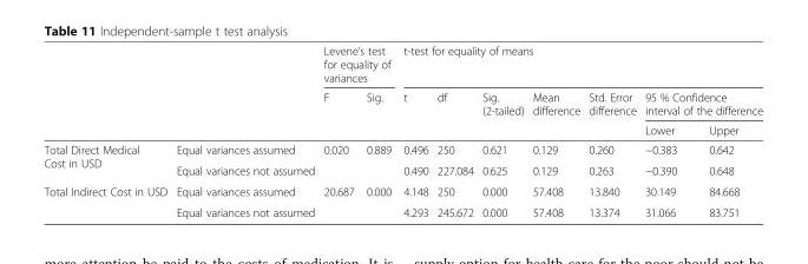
<table><thead><tr><td rowspan="3"></td><td rowspan="3"></td><td colspan="2">Levene’s test for equality of variances</td><td colspan="7">t-test for equality of means</td></tr><tr><td rowspan="2">F</td><td rowspan="2">Sig.</td><td rowspan="2">t</td><td rowspan="2">df</td><td rowspan="2">Sig. (2-tailed)</td><td rowspan="2">Mean difference</td><td rowspan="2">Std. Error difference</td><td colspan="2">95 % Confidence interval of the difference</td></tr><tr><td>Lower</td><td>Upper</td></tr></thead><tbody><tr><td rowspan="2">Total Direct Medical Cost in USD</td><td>Equal variances assumed</td><td>0.020</td><td>0.889</td><td>0.496</td><td>250</td><td>0.621</td><td>0.129</td><td>0.260</td><td>−0.383</td><td>0.642</td></tr><tr><td>Equal variances not assumed</td><td></td><td></td><td>0.490</td><td>227.084</td><td>0.625</td><td>0.129</td><td>0.263</td><td>−0.390</td><td>0.648</td></tr><tr><td rowspan="2">Total Indirect Cost in USD</td><td>Equal variances assumed</td><td>20.687</td><td>0.000</td><td>4.148</td><td>250</td><td>0.000</td><td>57.408</td><td>13.840</td><td>30.149</td><td>84.668</td></tr><tr><td>Equal variances not assumed</td><td></td><td></td><td>4.293</td><td>245.672</td><td>0.000</td><td>57.408</td><td>13.374</td><td>31.066</td><td>83.751</td></tr></tbody></table>